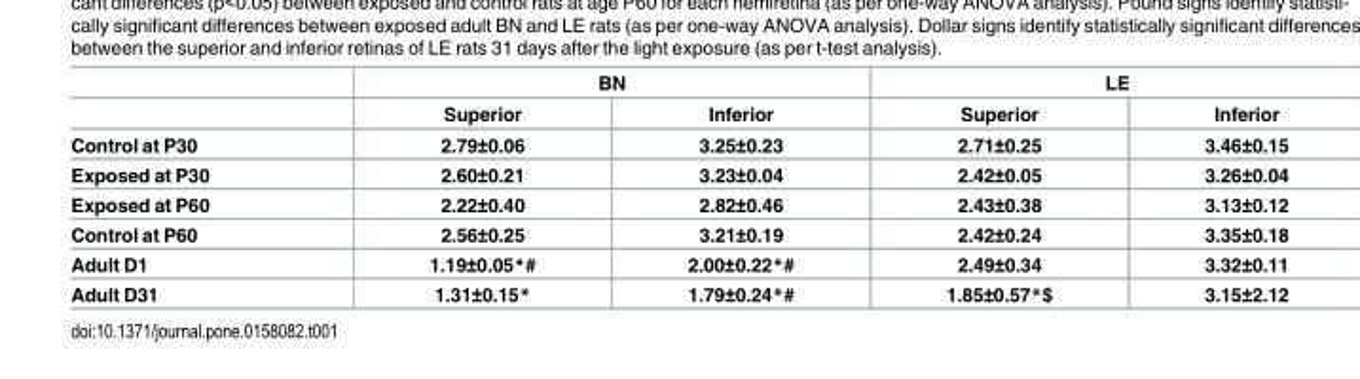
<table><thead><tr><td rowspan="2"></td><td colspan="2">BN</td><td colspan="2">LE</td></tr><tr><td>Superior</td><td>Inferior</td><td>Superior</td><td>Inferior</td></tr></thead><tbody><tr><td>Control at P30</td><td>2.79±0.06</td><td>3.25±0.23</td><td>2.71±0.25</td><td>3.46±0.15</td></tr><tr><td>Exposed at P30</td><td>2.60±0.21</td><td>3.23±0.04</td><td>2.42±0.05</td><td>3.26±0.04</td></tr><tr><td>Exposed at P60</td><td>2.22±0.40</td><td>2.82±0.46</td><td>2.43±0.38</td><td>3.13±0.12</td></tr><tr><td>Control at P60</td><td>2.56±0.25</td><td>3.21±0.19</td><td>2.42±0.24</td><td>3.35±0.18</td></tr><tr><td>Adult D1</td><td>1.19±0.05*#</td><td>2.00±0.22*#</td><td>2.49±0.34</td><td>3.32±0.11</td></tr><tr><td>Adult D31</td><td>1.31±0.15*</td><td>1.79±0.24*#</td><td>1.85±0.57*$</td><td>3.15±2.12</td></tr></tbody></table>